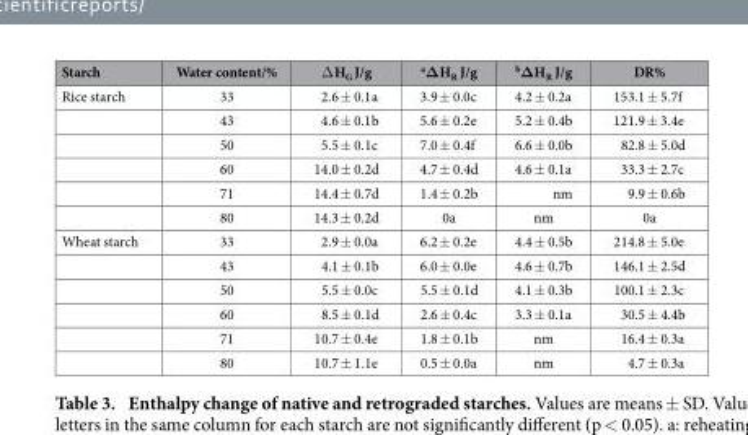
<table><thead><tr><td>Starch</td><td>Water content/%</td><td>Δ H<sub>G</sub> J/g</td><td><sup>a</sup>ΔH<sub>R</sub> J/g</td><td><sup>b</sup>ΔH<sub>R</sub> J/g</td><td>DR%</td></tr></thead><tbody><tr><td rowspan="6">Rice starch</td><td>33</td><td>2.6 ± 0.1a</td><td>3.9 ± 0.0c</td><td>4.2 ± 0.2a</td><td>153.1 ± 5.7f</td></tr><tr><td>43</td><td>4.6 ± 0.1b</td><td>5.6 ± 0.2e</td><td>5.2 ± 0.4b</td><td>121.9 ± 3.4e</td></tr><tr><td>50</td><td>5.5 ± 0.1c</td><td>7.0 ± 0.4f</td><td>6.6 ± 0.0b</td><td>82.8 ± 5.0d</td></tr><tr><td>60</td><td>14.0 ± 0.2d</td><td>4.7 ± 0.4d</td><td>4.6 ± 0.1a</td><td>33.3 ± 2.7c</td></tr><tr><td>71</td><td>14.4 ± 0.7d</td><td>1.4 ± 0.2b</td><td>nm</td><td>9.9 ± 0.6b</td></tr><tr><td>80</td><td>14.3 ± 0.2d</td><td>0a</td><td>nm</td><td>0a</td></tr><tr><td rowspan="6">Wheat starch</td><td>33</td><td>2.9 ± 0.0a</td><td>6.2 ± 0.2e</td><td>4.4 ± 0.5b</td><td>214.8 ± 5.0e</td></tr><tr><td>43</td><td>4.1 ± 0.1b</td><td>6.0 ± 0.0e</td><td>4.6 ± 0.7b</td><td>146.1 ± 2.5d</td></tr><tr><td>50</td><td>5.5 ± 0.0c</td><td>5.5 ± 0.1d</td><td>4.1 ± 0.3b</td><td>100.1 ± 2.3c</td></tr><tr><td>60</td><td>8.5 ± 0.1d</td><td>2.6 ± 0.4c</td><td>3.3 ± 0.1a</td><td>30.5 ± 4.4b</td></tr><tr><td>71</td><td>10.7 ± 0.4e</td><td>1.8 ± 0.1b</td><td>nm</td><td>16.4 ± 0.3a</td></tr><tr><td>80</td><td>10.7 ± 1.1e</td><td>0.5 ± 0.0a</td><td>nm</td><td>4.7 ± 0.3a</td></tr></tbody></table>